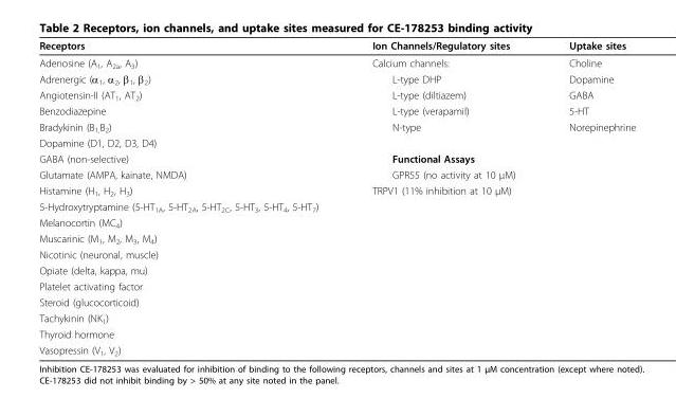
<table><thead><tr><td>Receptors</td><td>Ion Channels/Regulatory sites</td><td>Uptake sites</td></tr></thead><tbody><tr><td>Adenosine (A<sub>1</sub>, A<sub>2a</sub>, A<sub>3</sub>)</td><td>Calcium channels:</td><td>Choline</td></tr><tr><td>Adrenergic (α<sub>1</sub>, α<sub>2</sub>, β<sub>1</sub>, β<sub>2</sub>)</td><td>L-type DHP</td><td>Dopamine</td></tr><tr><td>Angiotensin-II (AT<sub>1</sub>, AT<sub>2</sub>)</td><td>L-type (diltiazem)</td><td>GABA</td></tr><tr><td>Benzodiazepine</td><td>L-type (verapamil)</td><td>5-HT</td></tr><tr><td>Bradykinin (B<sub>1,</sub>B<sub>2</sub>)</td><td>N-type</td><td>Norepinephrine</td></tr><tr><td colspan="3">Dopamine (D1, D2, D3, D4)</td></tr><tr><td>GABA (non-selective)</td><td>Functional Assays</td><td></td></tr><tr><td>Glutamate (AMPA, kainate, NMDA)</td><td>GPR55 (no activity at 10 μM)</td><td></td></tr><tr><td>Histamine (H<sub>1</sub>, H<sub>2</sub>, H<sub>3</sub>)</td><td>TRPV1 (11% inhibition at 10 μM)</td><td></td></tr><tr><td colspan="3">5-Hydroxytryptamine (5-HT<sub>1A</sub>, 5-HT<sub>2A</sub>, 5-HT<sub>2C</sub>, 5-HT<sub>3</sub>, 5-HT<sub>4</sub>, 5-HT<sub>7</sub>)</td></tr><tr><td colspan="3">Melanocortin (MC<sub>4</sub>)</td></tr><tr><td colspan="3">Muscarinic (M<sub>1</sub>, M<sub>2</sub>, M<sub>3</sub>, M<sub>4</sub>)</td></tr><tr><td colspan="3">Nicotinic (neuronal, muscle)</td></tr><tr><td colspan="3">Opiate (delta, kappa, mu)</td></tr><tr><td colspan="3">Platelet activating factor</td></tr><tr><td colspan="3">Steroid (glucocorticoid)</td></tr><tr><td colspan="3">Tachykinin (NK<sub>1</sub>)</td></tr><tr><td colspan="3">Thyroid hormone</td></tr><tr><td>Vasopressin (V<sub>1</sub>, V<sub>2</sub>)</td><td></td><td></td></tr></tbody></table>